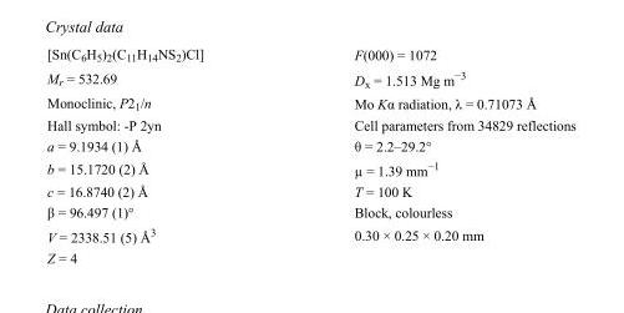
<table><tbody><tr><td>[Sn(C<sub>6</sub>H<sub>5</sub>)<sub>2</sub>(C<sub>11</sub>H<sub>14</sub>NS<sub>2</sub>)Cl]</td><td>F(000) = 1072</td></tr><tr><td>M<sub>r</sub> = 532.69</td><td>D<sub>x</sub> = 1.513 Mg m<sup>−3</sup></td></tr><tr><td>Monoclinic, P2<sub>1</sub>/n</td><td>Mo Kα radiation, λ = 0.71073 Å</td></tr><tr><td>Hall symbol: -P 2yn</td><td>Cell parameters from 34829 reflections</td></tr><tr><td>a = 9.1934 (1) Å</td><td>θ = 2.2–29.2°</td></tr><tr><td>b = 15.1720 (2) Å</td><td>µ = 1.39 mm<sup>−1</sup></td></tr><tr><td>c = 16.8740 (2) Å</td><td>T = 100 K</td></tr><tr><td>β = 96.497 (1)°</td><td>Block, colourless</td></tr><tr><td>V = 2338.51 (5) Å<sup>3</sup></td><td>0.30 × 0.25 × 0.20 mm</td></tr><tr><td>Z = 4</td><td></td></tr></tbody></table>